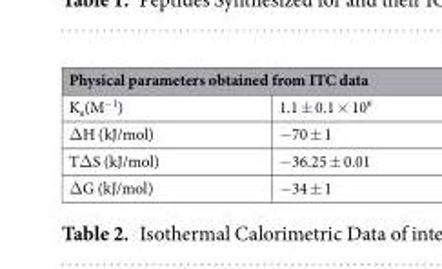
<table><thead><tr><td colspan="2">Physical parameters obtained from ITC data</td></tr><tr><td>K<sub>a</sub>(M<sup>−1</sup>)</td><td>1.1 ± 0.1 × 10<sup>6</sup></td></tr></thead><tbody><tr><td>ΔH (kJ/mol)</td><td>−70 ± 1</td></tr><tr><td>TΔS (kJ/mol)</td><td>−36.25 ± 0.01</td></tr><tr><td>ΔG (kJ/mol)</td><td>−34 ± 1</td></tr></tbody></table>